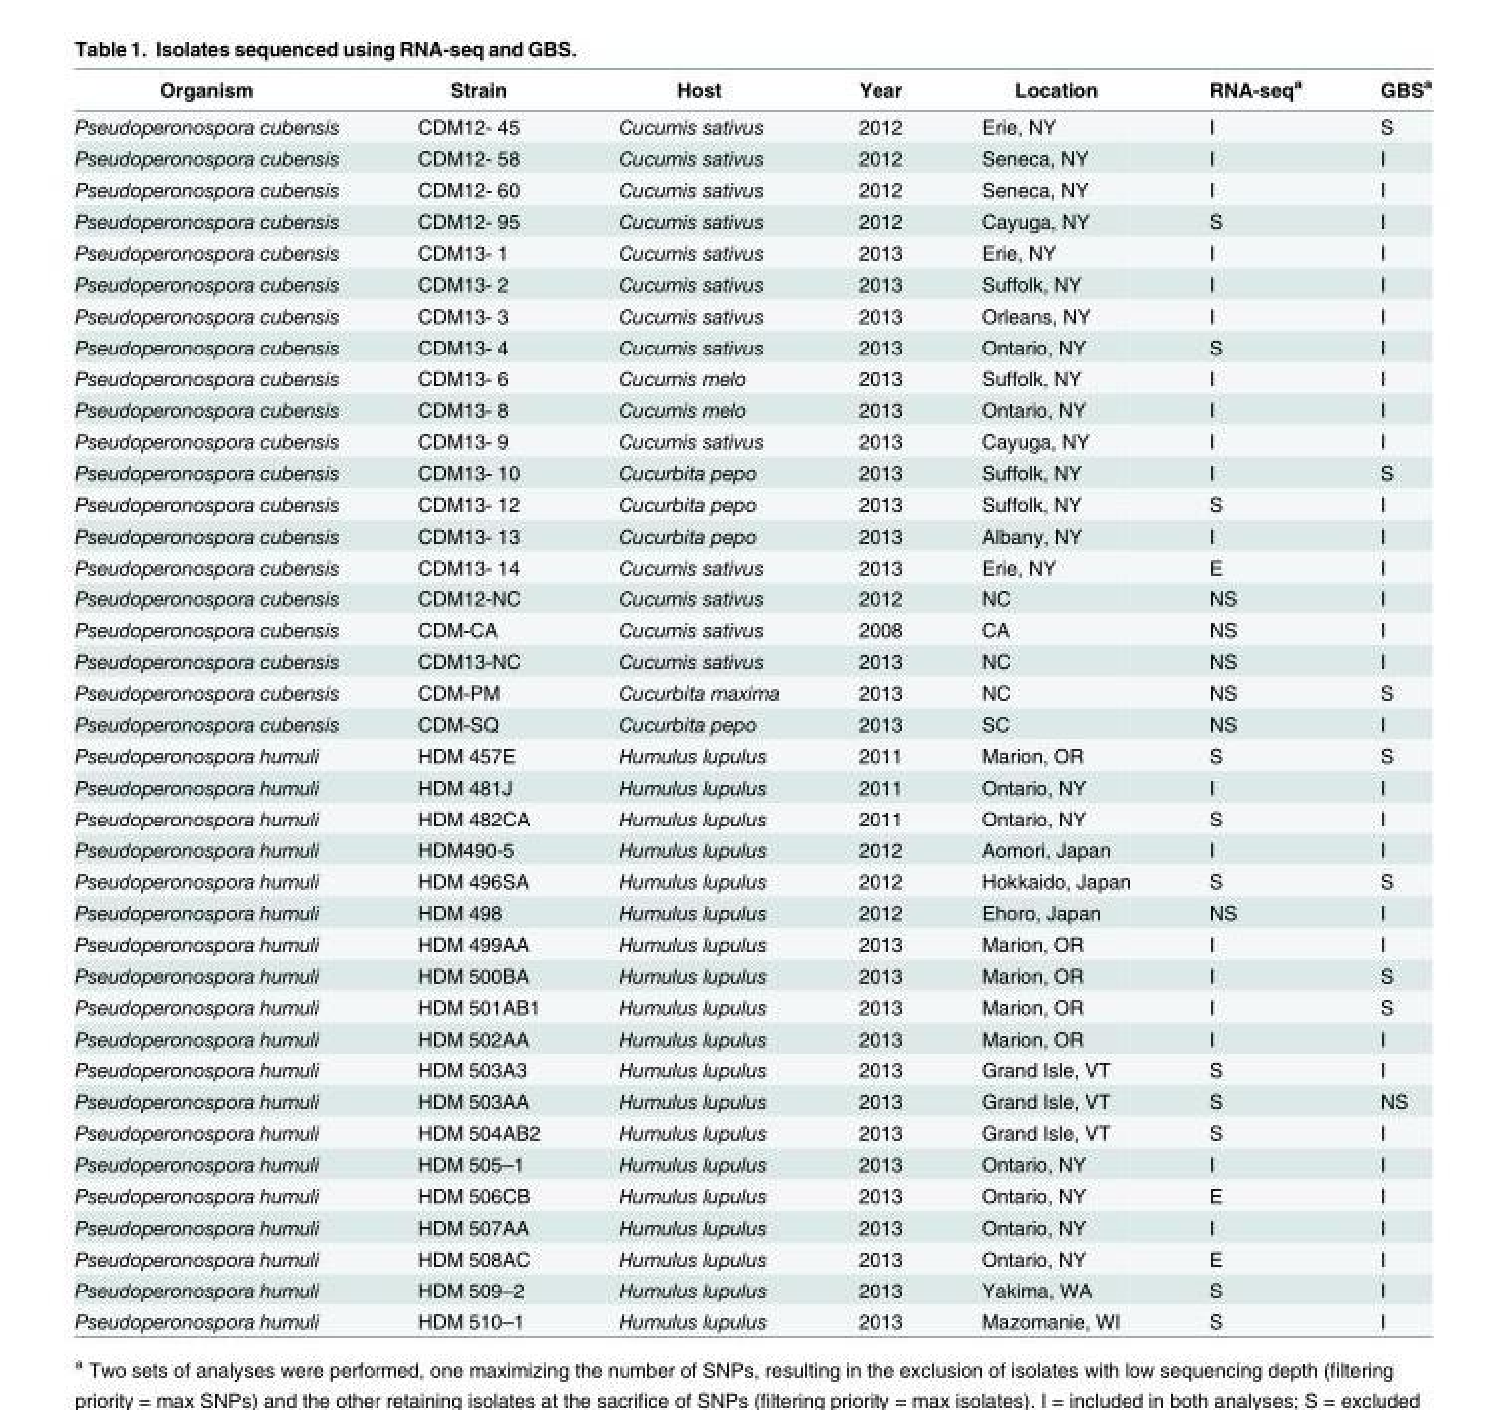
<table><thead><tr><td>Organism</td><td>Strain</td><td>Host</td><td>Year</td><td>Location</td><td>RNA-seq<sup>a</sup></td><td>GBS<sup>a</sup></td></tr></thead><tbody><tr><td>Pseudoperonospora cubensis</td><td>CDM12- 45</td><td>Cucumis sativus</td><td>2012</td><td>Erie, NY</td><td>I</td><td>S</td></tr><tr><td>Pseudoperonospora cubensis</td><td>CDM12- 58</td><td>Cucumis sativus</td><td>2012</td><td>Seneca, NY</td><td>I</td><td>I</td></tr><tr><td>Pseudoperonospora cubensis</td><td>CDM12- 60</td><td>Cucumis sativus</td><td>2012</td><td>Seneca, NY</td><td>I</td><td>I</td></tr><tr><td>Pseudoperonospora cubensis</td><td>CDM12- 95</td><td>Cucumis sativus</td><td>2012</td><td>Cayuga, NY</td><td>S</td><td>I</td></tr><tr><td>Pseudoperonospora cubensis</td><td>CDM13- 1</td><td>Cucumis sativus</td><td>2013</td><td>Erie, NY</td><td>I</td><td>I</td></tr><tr><td>Pseudoperonospora cubensis</td><td>CDM13- 2</td><td>Cucumis sativus</td><td>2013</td><td>Suffolk, NY</td><td>I</td><td>I</td></tr><tr><td>Pseudoperonospora cubensis</td><td>CDM13- 3</td><td>Cucumis sativus</td><td>2013</td><td>Orleans, NY</td><td>I</td><td>I</td></tr><tr><td>Pseudoperonospora cubensis</td><td>CDM13- 4</td><td>Cucumis sativus</td><td>2013</td><td>Ontario, NY</td><td>S</td><td>I</td></tr><tr><td>Pseudoperonospora cubensis</td><td>CDM13- 6</td><td>Cucumis melo</td><td>2013</td><td>Suffolk, NY</td><td>I</td><td>I</td></tr><tr><td>Pseudoperonospora cubensis</td><td>CDM13- 8</td><td>Cucumis melo</td><td>2013</td><td>Ontario, NY</td><td>I</td><td>I</td></tr><tr><td>Pseudoperonospora cubensis</td><td>CDM13- 9</td><td>Cucumis sativus</td><td>2013</td><td>Cayuga, NY</td><td>I</td><td>I</td></tr><tr><td>Pseudoperonospora cubensis</td><td>CDM13- 10</td><td>Cucurbita pepo</td><td>2013</td><td>Suffolk, NY</td><td>I</td><td>S</td></tr><tr><td>Pseudoperonospora cubensis</td><td>CDM13- 12</td><td>Cucurbita pepo</td><td>2013</td><td>Suffolk, NY</td><td>S</td><td>I</td></tr><tr><td>Pseudoperonospora cubensis</td><td>CDM13- 13</td><td>Cucurbita pepo</td><td>2013</td><td>Albany, NY</td><td>I</td><td>I</td></tr><tr><td>Pseudoperonospora cubensis</td><td>CDM13- 14</td><td>Cucumis sativus</td><td>2013</td><td>Erie, NY</td><td>E</td><td>I</td></tr><tr><td>Pseudoperonospora cubensis</td><td>CDM12-NC</td><td>Cucumis sativus</td><td>2012</td><td>NC</td><td>NS</td><td>I</td></tr><tr><td>Pseudoperonospora cubensis</td><td>CDM-CA</td><td>Cucumis sativus</td><td>2008</td><td>CA</td><td>NS</td><td>I</td></tr><tr><td>Pseudoperonospora cubensis</td><td>CDM13-NC</td><td>Cucumis sativus</td><td>2013</td><td>NC</td><td>NS</td><td>I</td></tr><tr><td>Pseudoperonospora cubensis</td><td>CDM-PM</td><td>Cucurbita maxima</td><td>2013</td><td>NC</td><td>NS</td><td>S</td></tr><tr><td>Pseudoperonospora cubensis</td><td>CDM-SQ</td><td>Cucurbita pepo</td><td>2013</td><td>SC</td><td>NS</td><td>I</td></tr><tr><td>Pseudoperonospora humuli</td><td>HDM 457E</td><td>Humulus lupulus</td><td>2011</td><td>Marion, OR</td><td>S</td><td>S</td></tr><tr><td>Pseudoperonospora humuli</td><td>HDM 481J</td><td>Humulus lupulus</td><td>2011</td><td>Ontario, NY</td><td>I</td><td>I</td></tr><tr><td>Pseudoperonospora humuli</td><td>HDM 482CA</td><td>Humulus lupulus</td><td>2011</td><td>Ontario, NY</td><td>S</td><td>I</td></tr><tr><td>Pseudoperonospora humuli</td><td>HDM490-5</td><td>Humulus lupulus</td><td>2012</td><td>Aomori, Japan</td><td>I</td><td>I</td></tr><tr><td>Pseudoperonospora humuli</td><td>HDM 496SA</td><td>Humulus lupulus</td><td>2012</td><td>Hokkaido, Japan</td><td>S</td><td>S</td></tr><tr><td>Pseudoperonospora humuli</td><td>HDM 498</td><td>Humulus lupulus</td><td>2012</td><td>Ehoro, Japan</td><td>NS</td><td>I</td></tr><tr><td>Pseudoperonospora humuli</td><td>HDM 499AA</td><td>Humulus lupulus</td><td>2013</td><td>Marion, OR</td><td>I</td><td>I</td></tr><tr><td>Pseudoperonospora humuli</td><td>HDM 500BA</td><td>Humulus lupulus</td><td>2013</td><td>Marion, OR</td><td>I</td><td>S</td></tr><tr><td>Pseudoperonospora humuli</td><td>HDM 501AB1</td><td>Humulus lupulus</td><td>2013</td><td>Marion, OR</td><td>I</td><td>S</td></tr><tr><td>Pseudoperonospora humuli</td><td>HDM 502AA</td><td>Humulus lupulus</td><td>2013</td><td>Marion, OR</td><td>I</td><td>I</td></tr><tr><td>Pseudoperonospora humuli</td><td>HDM 503A3</td><td>Humulus lupulus</td><td>2013</td><td>Grand Isle, VT</td><td>S</td><td>I</td></tr><tr><td>Pseudoperonospora humuli</td><td>HDM 503AA</td><td>Humulus lupulus</td><td>2013</td><td>Grand Isle, VT</td><td>S</td><td>NS</td></tr><tr><td>Pseudoperonospora humuli</td><td>HDM 504AB2</td><td>Humulus lupulus</td><td>2013</td><td>Grand Isle, VT</td><td>S</td><td>I</td></tr><tr><td>Pseudoperonospora humuli</td><td>HDM 505–1</td><td>Humulus lupulus</td><td>2013</td><td>Ontario, NY</td><td>I</td><td>I</td></tr><tr><td>Pseudoperonospora humuli</td><td>HDM 506CB</td><td>Humulus lupulus</td><td>2013</td><td>Ontario, NY</td><td>E</td><td>I</td></tr><tr><td>Pseudoperonospora humuli</td><td>HDM 507AA</td><td>Humulus lupulus</td><td>2013</td><td>Ontario, NY</td><td>I</td><td>I</td></tr><tr><td>Pseudoperonospora humuli</td><td>HDM 508AC</td><td>Humulus lupulus</td><td>2013</td><td>Ontario, NY</td><td>E</td><td>I</td></tr><tr><td>Pseudoperonospora humuli</td><td>HDM 509–2</td><td>Humulus lupulus</td><td>2013</td><td>Yakima, WA</td><td>S</td><td>I</td></tr><tr><td>Pseudoperonospora humuli</td><td>HDM 510–1</td><td>Humulus lupulus</td><td>2013</td><td>Mazomanie, WI</td><td>S</td><td>I</td></tr></tbody></table>